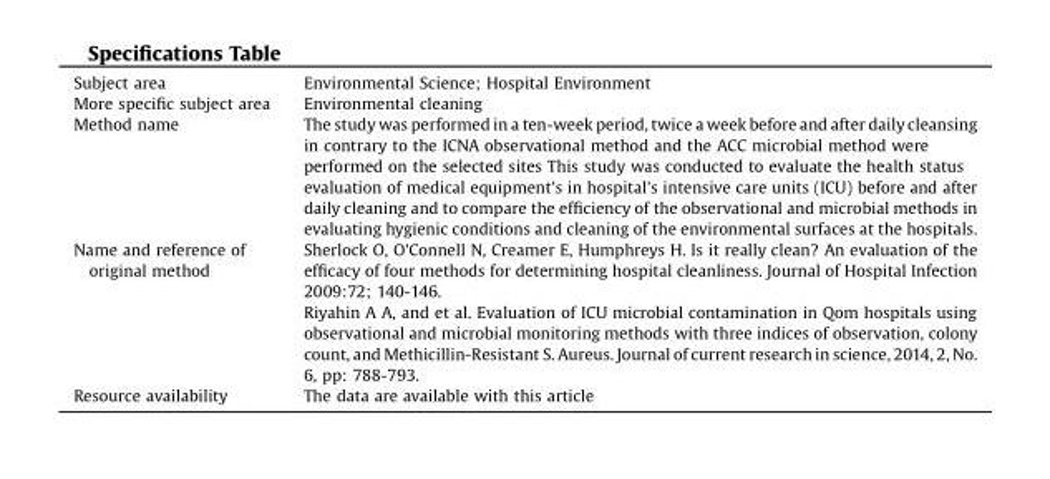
<table><tbody><tr><td>Subject area</td><td>Environmental Science; Hospital Environment</td></tr><tr><td>More specific subject area</td><td>Environmental cleaning</td></tr><tr><td>Method name</td><td>The study was performed in a ten-week period, twice a week before and after daily cleansing in contrary to the ICNA observational method and the ACC microbial method were performed on the selected sites This study was conducted to evaluate the health status evaluation of medical equipment’s in hospital’s intensive care units (ICU) before and after daily cleaning and to compare the efficiency of the observational and microbial methods in evaluating hygienic conditions and cleaning of the environmental surfaces at the hospitals.</td></tr><tr><td>Name and reference of original method</td><td>Sherlock O, O’Connell N, Creamer E, Humphreys H. Is it really clean? An evaluation of the efficacy of four methods for determining hospital cleanliness. Journal of Hospital Infection 2009:72; 140-146. Riyahin A A, and et al. Evaluation of ICU microbial contamination in Qom hospitals using observational and microbial monitoring methods with three indices of observation, colony count, and Methicillin-Resistant S. Aureus. Journal of current research in science, 2014, 2, No. 6, pp: 788-793.</td></tr><tr><td>Resource availability</td><td>The data are available with this article</td></tr></tbody></table>